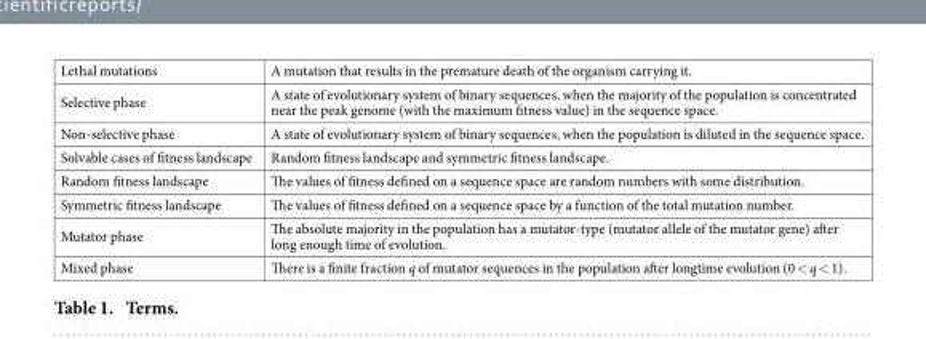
<table><tbody><tr><td>Lethal mutations</td><td>A mutation that results in the premature death of the organism carrying it.</td></tr><tr><td>Selective phase</td><td>A state of evolutionary system of binary sequences, when the majority of the population is concentrated near the peak genome (with the maximum fitness value) in the sequence space.</td></tr><tr><td>Non-selective phase</td><td>A state of evolutionary system of binary sequences, when the population is diluted in the sequence space.</td></tr><tr><td>Solvable cases of fitness landscape</td><td>Random fitness landscape and symmetric fitness landscape.</td></tr><tr><td>Random fitness landscape</td><td>The values of fitness defined on a sequence space are random numbers with some distribution.</td></tr><tr><td>Symmetric fitness landscape</td><td>The values of fitness defined on a sequence space by a function of the total mutation number.</td></tr><tr><td>Mutator phase</td><td>The absolute majority in the population has a mutator-type (mutator allele of the mutator gene) after long enough time of evolution.</td></tr><tr><td>Mixed phase</td><td>There is a finite fraction q of mutator sequences in the population after longtime evolution (0 &lt; q &lt; 1).</td></tr></tbody></table>